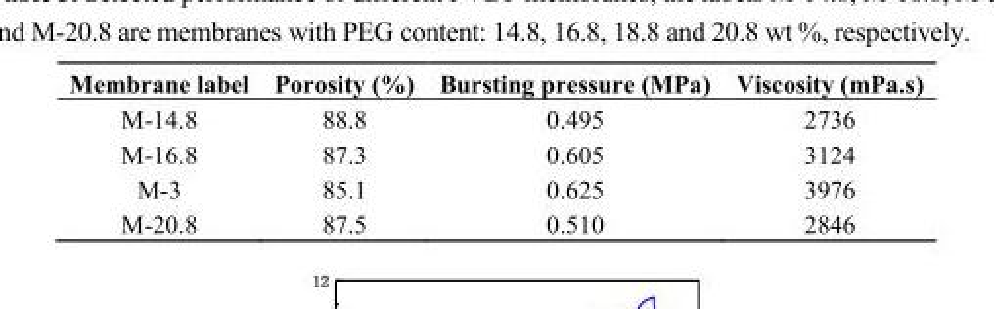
<table><thead><tr><td>Membrane label</td><td>Porosity (%)</td><td>Bursting pressure (MPa)</td><td>Viscosity (mPa.s)</td></tr></thead><tbody><tr><td>M-14.8</td><td>88.8</td><td>0.495</td><td>2736</td></tr><tr><td>M-16.8</td><td>87.3</td><td>0.605</td><td>3124</td></tr><tr><td>M-3</td><td>85.1</td><td>0.625</td><td>3976</td></tr><tr><td>M-20.8</td><td>87.5</td><td>0.510</td><td>2846</td></tr></tbody></table>